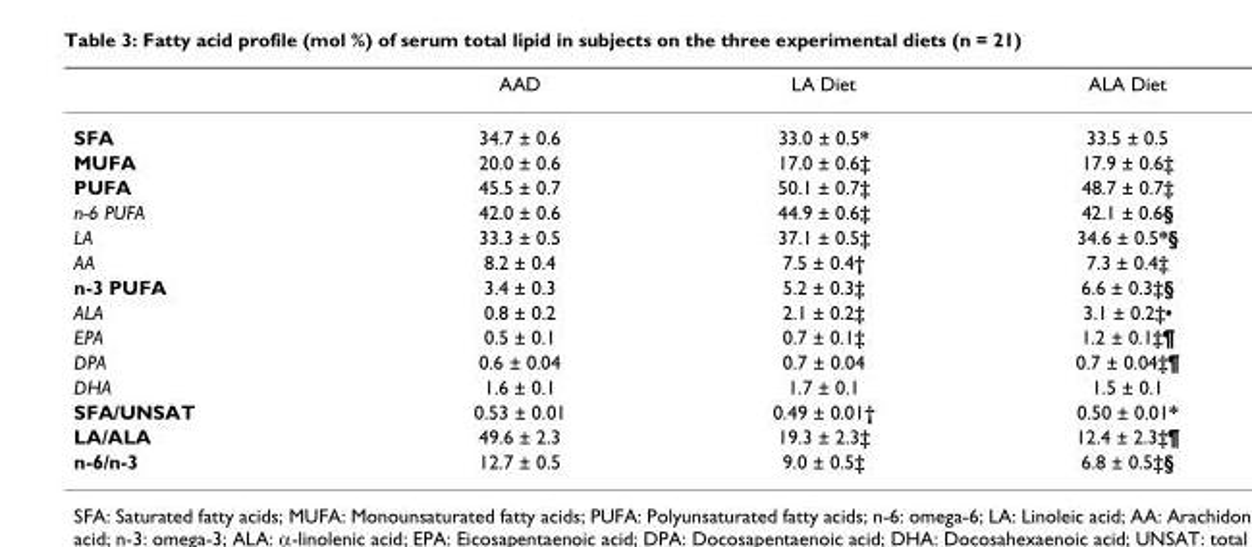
<table><thead><tr><td></td><td>AAD</td><td>LA Diet</td><td>ALA Diet</td></tr></thead><tbody><tr><td>SFA</td><td>34.7 ± 0.6</td><td>33.0 ± 0.5*</td><td>33.5 ± 0.5</td></tr><tr><td>MUFA</td><td>20.0 ± 0.6</td><td>17.0 ± 0.6‡</td><td>17.9 ± 0.6‡</td></tr><tr><td>PUFA</td><td>45.5 ± 0.7</td><td>50.1 ± 0.7‡</td><td>48.7 ± 0.7‡</td></tr><tr><td>n-6 PUFA</td><td>42.0 ± 0.6</td><td>44.9 ± 0.6‡</td><td>42.1 ± 0.6§</td></tr><tr><td>LA</td><td>33.3 ± 0.5</td><td>37.1 ± 0.5‡</td><td>34.6 ± 0.5*§</td></tr><tr><td>AA</td><td>8.2 ± 0.4</td><td>7.5 ± 0.4†</td><td>7.3 ± 0.4‡</td></tr><tr><td>n-3 PUFA</td><td>3.4 ± 0.3</td><td>5.2 ± 0.3‡</td><td>6.6 ± 0.3‡§</td></tr><tr><td>ALA</td><td>0.8 ± 0.2</td><td>2.1 ± 0.2‡</td><td>3.1 ± 0.2‡•</td></tr><tr><td>EPA</td><td>0.5 ± 0.1</td><td>0.7 ± 0.1‡</td><td>1.2 ± 0.1‡¶</td></tr><tr><td>DPA</td><td>0.6 ± 0.04</td><td>0.7 ± 0.04</td><td>0.7 ± 0.04‡¶</td></tr><tr><td>DHA</td><td>1.6 ± 0.1</td><td>1.7 ± 0.1</td><td>1.5 ± 0.1</td></tr><tr><td>SFA/UNSAT</td><td>0.53 ± 0.01</td><td>0.49 ± 0.01†</td><td>0.50 ± 0.01*</td></tr><tr><td>LA/ALA</td><td>49.6 ± 2.3</td><td>19.3 ± 2.3‡</td><td>12.4 ± 2.3‡¶</td></tr><tr><td>n-6/n-3</td><td>12.7 ± 0.5</td><td>9.0 ± 0.5‡</td><td>6.8 ± 0.5‡§</td></tr></tbody></table>